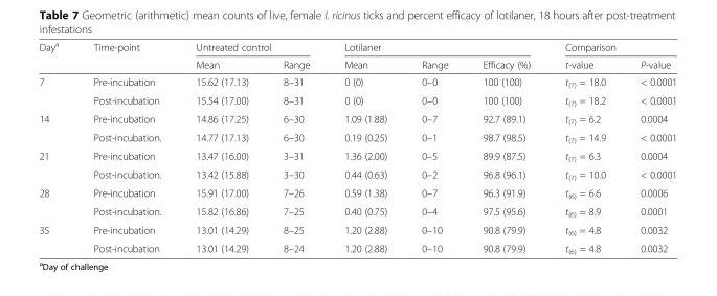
<table><thead><tr><td rowspan="2">Day<sup>a</sup></td><td rowspan="2">Time-point</td><td colspan="2">Untreated control</td><td colspan="3">Lotilaner</td><td colspan="2">Comparison</td></tr><tr><td>Mean</td><td>Range</td><td>Mean</td><td>Range</td><td>Efficacy (%)</td><td>t-value</td><td>P-value</td></tr></thead><tbody><tr><td rowspan="2">7</td><td>Pre-incubation</td><td>15.62 (17.13)</td><td>8–31</td><td>0 (0)</td><td>0–0</td><td>100 (100)</td><td>t<sub>(7)</sub> = 18.0</td><td>&lt; 0.0001</td></tr><tr><td>Post-incubation</td><td>15.54 (17.00)</td><td>8–31</td><td>0 (0)</td><td>0–0</td><td>100 (100)</td><td>t<sub>(7)</sub> = 18.2</td><td>&lt; 0.0001</td></tr><tr><td rowspan="2">14</td><td>Pre-incubation</td><td>14.86 (17.25)</td><td>6–30</td><td>1.09 (1.88)</td><td>0–7</td><td>92.7 (89.1)</td><td>t<sub>(7)</sub> = 6.2</td><td>0.0004</td></tr><tr><td>Post-incubation.</td><td>14.77 (17.13)</td><td>6–30</td><td>0.19 (0.25)</td><td>0–1</td><td>98.7 (98.5)</td><td>t<sub>(7)</sub> = 14.9</td><td>&lt; 0.0001</td></tr><tr><td rowspan="2">21</td><td>Pre-incubation</td><td>13.47 (16.00)</td><td>3–31</td><td>1.36 (2.00)</td><td>0–5</td><td>89.9 (87.5)</td><td>t<sub>(7)</sub> = 6.3</td><td>0.0004</td></tr><tr><td>Post-incubation.</td><td>13.42 (15.88)</td><td>3–30</td><td>0.44 (0.63)</td><td>0–2</td><td>96.8 (96.1)</td><td>t<sub>(7)</sub> = 10.0</td><td>&lt; 0.0001</td></tr><tr><td rowspan="2">28</td><td>Pre-incubation</td><td>15.91 (17.00)</td><td>7–26</td><td>0.59 (1.38)</td><td>0–7</td><td>96.3 (91.9)</td><td>t<sub>(6)</sub> = 6.6</td><td>0.0006</td></tr><tr><td>Post-incubation.</td><td>15.82 (16.86)</td><td>7–25</td><td>0.40 (0.75)</td><td>0–4</td><td>97.5 (95.6)</td><td>t<sub>(6)</sub> = 8.9</td><td>0.0001</td></tr><tr><td rowspan="2">35</td><td>Pre-incubation</td><td>13.01 (14.29)</td><td>8–25</td><td>1.20 (2.88)</td><td>0–10</td><td>90.8 (79.9)</td><td>t<sub>(6)</sub> = 4.8</td><td>0.0032</td></tr><tr><td>Post-incubation</td><td>13.01 (14.29)</td><td>8–24</td><td>1.20 (2.88)</td><td>0–10</td><td>90.8 (79.9)</td><td>t<sub>(6)</sub> = 4.8</td><td>0.0032</td></tr></tbody></table>